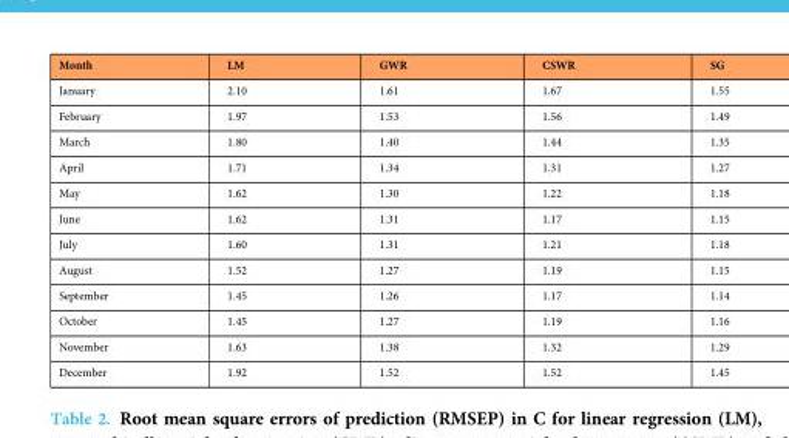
<table><thead><tr><td>Month</td><td>LM</td><td>GWR</td><td>CSWR</td><td>SG</td></tr></thead><tbody><tr><td>January</td><td>2.10</td><td>1.61</td><td>1.67</td><td>1.55</td></tr><tr><td>February</td><td>1.97</td><td>1.53</td><td>1.56</td><td>1.49</td></tr><tr><td>March</td><td>1.80</td><td>1.40</td><td>1.44</td><td>1.35</td></tr><tr><td>April</td><td>1.71</td><td>1.34</td><td>1.31</td><td>1.27</td></tr><tr><td>May</td><td>1.62</td><td>1.30</td><td>1.22</td><td>1.18</td></tr><tr><td>June</td><td>1.62</td><td>1.31</td><td>1.17</td><td>1.15</td></tr><tr><td>July</td><td>1.60</td><td>1.31</td><td>1.21</td><td>1.18</td></tr><tr><td>August</td><td>1.52</td><td>1.27</td><td>1.19</td><td>1.15</td></tr><tr><td>September</td><td>1.45</td><td>1.26</td><td>1.17</td><td>1.14</td></tr><tr><td>October</td><td>1.45</td><td>1.27</td><td>1.19</td><td>1.16</td></tr><tr><td>November</td><td>1.63</td><td>1.38</td><td>1.32</td><td>1.29</td></tr><tr><td>December</td><td>1.92</td><td>1.52</td><td>1.52</td><td>1.45</td></tr></tbody></table>